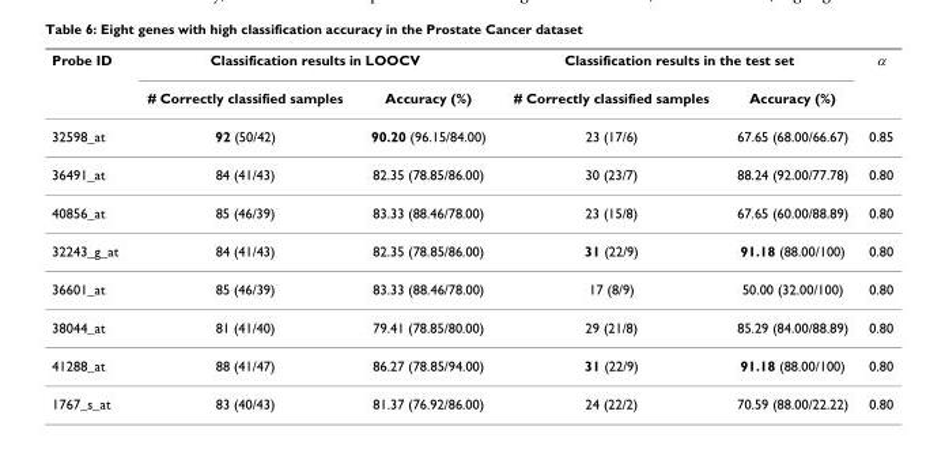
<table><thead><tr><td rowspan="2">Probe ID</td><td colspan="2">Classification results in LOOCV</td><td colspan="2">Classification results in the test set</td><td rowspan="2">α</td></tr><tr><td># Correctly classified samples</td><td>Accuracy (%)</td><td># Correctly classified samples</td><td>Accuracy (%)</td></tr></thead><tbody><tr><td>32598_at</td><td>92 (50/42)</td><td>90.20 (96.15/84.00)</td><td>23 (17/6)</td><td>67.65 (68.00/66.67)</td><td>0.85</td></tr><tr><td>36491_at</td><td>84 (41/43)</td><td>82.35 (78.85/86.00)</td><td>30 (23/7)</td><td>88.24 (92.00/77.78)</td><td>0.80</td></tr><tr><td>40856_at</td><td>85 (46/39)</td><td>83.33 (88.46/78.00)</td><td>23 (15/8)</td><td>67.65 (60.00/88.89)</td><td>0.80</td></tr><tr><td>32243_g_at</td><td>84 (41/43)</td><td>82.35 (78.85/86.00)</td><td>31 (22/9)</td><td>91.18 (88.00/100)</td><td>0.80</td></tr><tr><td>36601_at</td><td>85 (46/39)</td><td>83.33 (88.46/78.00)</td><td>17 (8/9)</td><td>50.00 (32.00/100)</td><td>0.80</td></tr><tr><td>38044_at</td><td>81 (41/40)</td><td>79.41 (78.85/80.00)</td><td>29 (21/8)</td><td>85.29 (84.00/88.89)</td><td>0.80</td></tr><tr><td>41288_at</td><td>88 (41/47)</td><td>86.27 (78.85/94.00)</td><td>31 (22/9)</td><td>91.18 (88.00/100)</td><td>0.80</td></tr><tr><td>1767_s_at</td><td>83 (40/43)</td><td>81.37 (76.92/86.00)</td><td>24 (22/2)</td><td>70.59 (88.00/22.22)</td><td>0.80</td></tr></tbody></table>